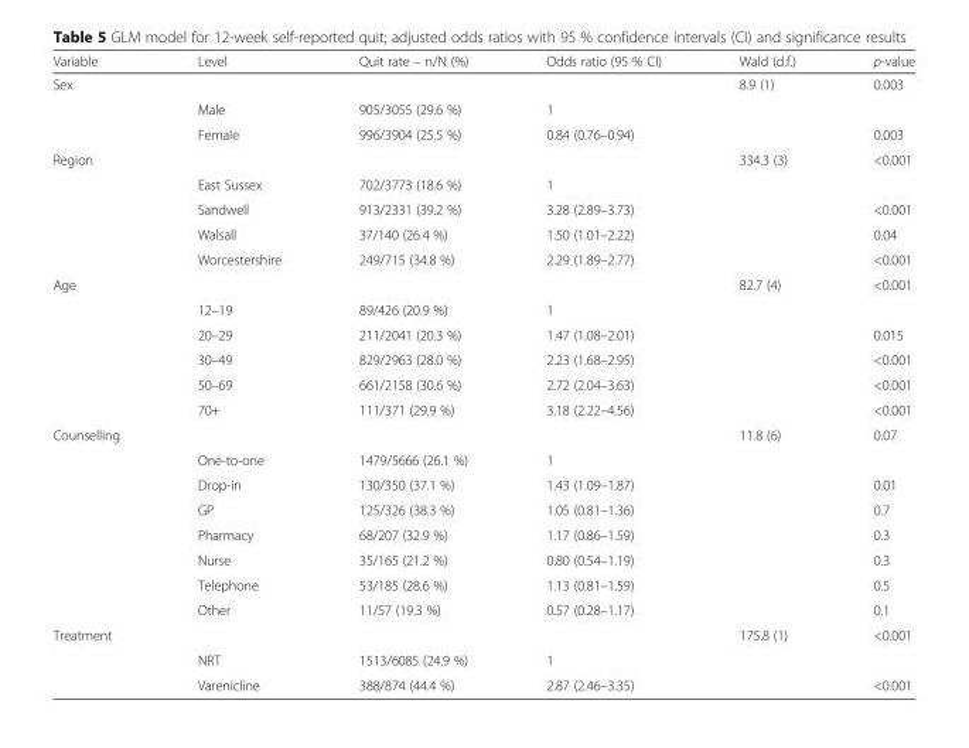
<table><thead><tr><td>Variable</td><td>Level</td><td>Quit rate – n/N (%)</td><td>Odds ratio (95 % CI)</td><td>Wald (d.f.)</td><td>p-value</td></tr></thead><tbody><tr><td rowspan="3">Sex</td><td></td><td></td><td></td><td>8.9 (1)</td><td>0.003</td></tr><tr><td>Male</td><td>905/3055 (29.6 %)</td><td>1</td><td></td><td></td></tr><tr><td>Female</td><td>996/3904 (25.5 %)</td><td>0.84 (0.76–0.94)</td><td></td><td>0.003</td></tr><tr><td rowspan="5">Region</td><td></td><td></td><td></td><td>334.3 (3)</td><td>&lt;0.001</td></tr><tr><td>East Sussex</td><td>702/3773 (18.6 %)</td><td>1</td><td></td><td></td></tr><tr><td>Sandwell</td><td>913/2331 (39.2 %)</td><td>3.28 (2.89–3.73)</td><td></td><td>&lt;0.001</td></tr><tr><td>Walsall</td><td>37/140 (26.4 %)</td><td>1.50 (1.01–2.22)</td><td></td><td>0.04</td></tr><tr><td>Worcestershire</td><td>249/715 (34.8 %)</td><td>2.29 (1.89–2.77)</td><td></td><td>&lt;0.001</td></tr><tr><td rowspan="6">Age</td><td></td><td></td><td></td><td>82.7 (4)</td><td>&lt;0.001</td></tr><tr><td>12–19</td><td>89/426 (20.9 %)</td><td>1</td><td></td><td></td></tr><tr><td>20–29</td><td>211/2041 (20.3 %)</td><td>1.47 (1.08–2.01)</td><td></td><td>0.015</td></tr><tr><td>30–49</td><td>829/2963 (28.0 %)</td><td>2.23 (1.68–2.95)</td><td></td><td>&lt;0.001</td></tr><tr><td>50–69</td><td>661/2158 (30.6 %)</td><td>2.72 (2.04–3.63)</td><td></td><td>&lt;0.001</td></tr><tr><td>70+</td><td>111/371 (29.9 %)</td><td>3.18 (2.22–4.56)</td><td></td><td>&lt;0.001</td></tr><tr><td rowspan="8">Counselling</td><td></td><td></td><td></td><td>11.8 (6)</td><td>0.07</td></tr><tr><td>One-to-one</td><td>1479/5666 (26.1 %)</td><td>1</td><td></td><td></td></tr><tr><td>Drop-in</td><td>130/350 (37.1 %)</td><td>1.43 (1.09–1.87)</td><td></td><td>0.01</td></tr><tr><td>GP</td><td>125/326 (38.3 %)</td><td>1.05 (0.81–1.36)</td><td></td><td>0.7</td></tr><tr><td>Pharmacy</td><td>68/207 (32.9 %)</td><td>1.17 (0.86–1.59)</td><td></td><td>0.3</td></tr><tr><td>Nurse</td><td>35/165 (21.2 %)</td><td>0.80 (0.54–1.19)</td><td></td><td>0.3</td></tr><tr><td>Telephone</td><td>53/185 (28.6 %)</td><td>1.13 (0.81–1.59)</td><td></td><td>0.5</td></tr><tr><td>Other</td><td>11/57 (19.3 %)</td><td>0.57 (0.28–1.17)</td><td></td><td>0.1</td></tr><tr><td rowspan="3">Treatment</td><td></td><td></td><td></td><td>175.8 (1)</td><td>&lt;0.001</td></tr><tr><td>NRT</td><td>1513/6085 (24.9 %)</td><td>1</td><td></td><td></td></tr><tr><td>Varenicline</td><td>388/874 (44.4 %)</td><td>2.87 (2.46–3.35)</td><td></td><td>&lt;0.001</td></tr></tbody></table>